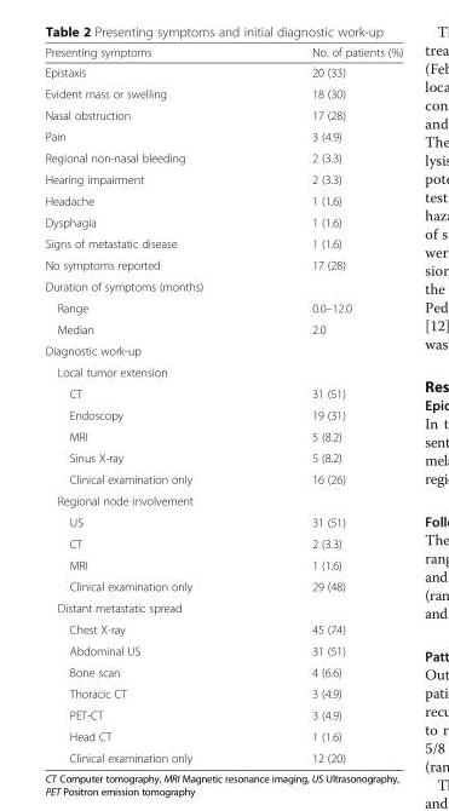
<table><thead><tr><td>Presenting symptoms</td><td>No. of patients (%)</td></tr></thead><tbody><tr><td>Epistaxis</td><td>20 (33)</td></tr><tr><td>Evident mass or swelling</td><td>18 (30)</td></tr><tr><td>Nasal obstruction</td><td>17 (28)</td></tr><tr><td>Pain</td><td>3 (4.9)</td></tr><tr><td>Regional non-nasal bleeding</td><td>2 (3.3)</td></tr><tr><td>Hearing impairment</td><td>2 (3.3)</td></tr><tr><td>Headache</td><td>1 (1.6)</td></tr><tr><td>Dysphagia</td><td>1 (1.6)</td></tr><tr><td>Signs of metastatic disease</td><td>1 (1.6)</td></tr><tr><td>No symptoms reported</td><td>17 (28)</td></tr><tr><td colspan="2">Duration of symptoms (months)</td></tr><tr><td>Range</td><td>0.0–12.0</td></tr><tr><td>Median</td><td>2.0</td></tr><tr><td colspan="2">Diagnostic work-up</td></tr><tr><td colspan="2">Local tumor extension</td></tr><tr><td>CT</td><td>31 (51)</td></tr><tr><td>Endoscopy</td><td>19 (31)</td></tr><tr><td>MRI</td><td>5 (8.2)</td></tr><tr><td>Sinus X-ray</td><td>5 (8.2)</td></tr><tr><td>Clinical examination only</td><td>16 (26)</td></tr><tr><td colspan="2">Regional node involvement</td></tr><tr><td>US</td><td>31 (51)</td></tr><tr><td>CT</td><td>2 (3.3)</td></tr><tr><td>MRI</td><td>1 (1.6)</td></tr><tr><td>Clinical examination only</td><td>29 (48)</td></tr><tr><td colspan="2">Distant metastatic spread</td></tr><tr><td>Chest X-ray</td><td>45 (74)</td></tr><tr><td>Abdominal US</td><td>31 (51)</td></tr><tr><td>Bone scan</td><td>4 (6.6)</td></tr><tr><td>Thoracic CT</td><td>3 (4.9)</td></tr><tr><td>PET-CT</td><td>3 (4.9)</td></tr><tr><td>Head CT</td><td>1 (1.6)</td></tr><tr><td>Clinical examination only</td><td>12 (20)</td></tr></tbody></table>